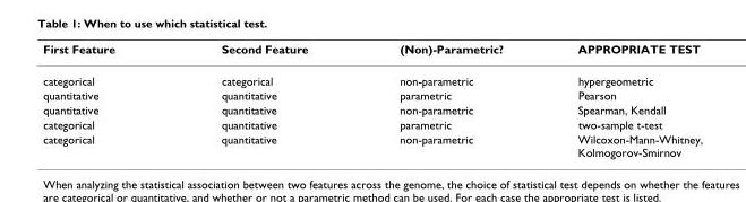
<table><thead><tr><td>First Feature</td><td>Second Feature</td><td>(Non)-Parametric?</td><td>APPROPRIATE TEST</td></tr></thead><tbody><tr><td>categorical</td><td>categorical</td><td>non-parametric</td><td>hypergeometric</td></tr><tr><td>quantitative</td><td>quantitative</td><td>parametric</td><td>Pearson</td></tr><tr><td>quantitative</td><td>quantitative</td><td>non-parametric</td><td>Spearman, Kendall</td></tr><tr><td>categorical</td><td>quantitative</td><td>parametric</td><td>two-sample t-test</td></tr><tr><td>categorical</td><td>quantitative</td><td>non-parametric</td><td>Wilcoxon-Mann-Whitney, Kolmogorov-Smirnov</td></tr></tbody></table>